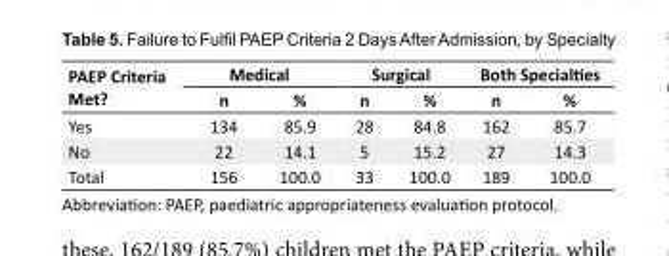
<table><tbody><tr><td rowspan="2">PAEP Criteria Met?</td><td colspan="2">Medical</td><td colspan="2">Surgical</td><td colspan="2">Both Specialties</td></tr><tr><td>n</td><td>%</td><td>n</td><td>%</td><td>n</td><td>%</td></tr><tr><td>Yes</td><td>134</td><td>85.9</td><td>28</td><td>84.8</td><td>162</td><td>85.7</td></tr><tr><td>No</td><td>22</td><td>14.1</td><td>5</td><td>15.2</td><td>27</td><td>14.3</td></tr><tr><td>Total</td><td>156</td><td>100.0</td><td>33</td><td>100.0</td><td>189</td><td>100.0</td></tr></tbody></table>